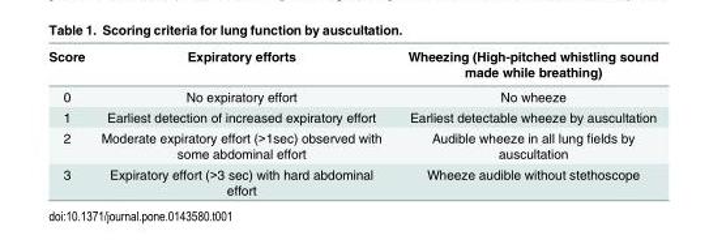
<table><thead><tr><td>Score</td><td>Expiratory efforts</td><td>Wheezing (High-pitched whistling sound made while breathing)</td></tr></thead><tbody><tr><td>0</td><td>No expiratory effort</td><td>No wheeze</td></tr><tr><td>1</td><td>Earliest detection of increased expiratory effort</td><td>Earliest detectable wheeze by auscultation</td></tr><tr><td>2</td><td>Moderate expiratory effort (&gt;1sec) observed with some abdominal effort</td><td>Audible wheeze in all lung fields by auscultation</td></tr><tr><td>3</td><td>Expiratory effort (&gt;3 sec) with hard abdominal effort</td><td>Wheeze audible without stethoscope</td></tr></tbody></table>